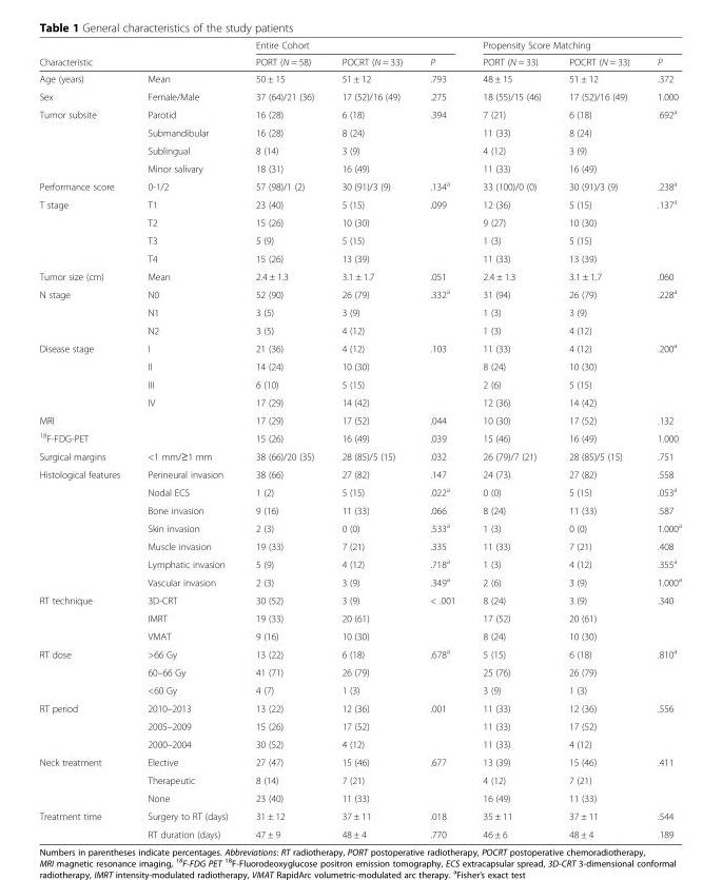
<table><thead><tr><td rowspan="2">Characteristic</td><td rowspan="2"></td><td colspan="3">Entire Cohort</td><td colspan="3">Propensity Score Matching</td></tr><tr><td>PORT (N = 58)</td><td>POCRT (N = 33)</td><td>P</td><td>PORT (N = 33)</td><td>POCRT (N = 33)</td><td>P</td></tr></thead><tbody><tr><td>Age (years)</td><td>Mean</td><td>50 ± 15</td><td>51 ± 12</td><td>.793</td><td>48 ± 15</td><td>51 ± 12</td><td>.372</td></tr><tr><td>Sex</td><td>Female/Male</td><td>37 (64)/21 (36)</td><td>17 (52)/16 (49)</td><td>.275</td><td>18 (55)/15 (46)</td><td>17 (52)/16 (49)</td><td>1.000</td></tr><tr><td rowspan="4">Tumor subsite</td><td>Parotid</td><td>16 (28)</td><td>6 (18)</td><td>.394</td><td>7 (21)</td><td>6 (18)</td><td>.692<sup>a</sup></td></tr><tr><td>Submandibular</td><td>16 (28)</td><td>8 (24)</td><td></td><td>11 (33)</td><td>8 (24)</td><td></td></tr><tr><td>Sublingual</td><td>8 (14)</td><td>3 (9)</td><td></td><td>4 (12)</td><td>3 (9)</td><td></td></tr><tr><td>Minor salivary</td><td>18 (31)</td><td>16 (49)</td><td></td><td>11 (33)</td><td>16 (49)</td><td></td></tr><tr><td>Performance score</td><td>0-1/2</td><td>57 (98)/1 (2)</td><td>30 (91)/3 (9)</td><td>.134<sup>a</sup></td><td>33 (100)/0 (0)</td><td>30 (91)/3 (9)</td><td>.238<sup>a</sup></td></tr><tr><td rowspan="4">T stage</td><td>T1</td><td>23 (40)</td><td>5 (15)</td><td>.099</td><td>12 (36)</td><td>5 (15)</td><td>.137<sup>a</sup></td></tr><tr><td>T2</td><td>15 (26)</td><td>10 (30)</td><td></td><td>9 (27)</td><td>10 (30)</td><td></td></tr><tr><td>T3</td><td>5 (9)</td><td>5 (15)</td><td></td><td>1 (3)</td><td>5 (15)</td><td></td></tr><tr><td>T4</td><td>15 (26)</td><td>13 (39)</td><td></td><td>11 (33)</td><td>13 (39)</td><td></td></tr><tr><td>Tumor size (cm)</td><td>Mean</td><td>2.4 ± 1.3</td><td>3.1 ± 1.7</td><td>.051</td><td>2.4 ± 1.3</td><td>3.1 ± 1.7</td><td>.060</td></tr><tr><td rowspan="3">N stage</td><td>N0</td><td>52 (90)</td><td>26 (79)</td><td>.332<sup>a</sup></td><td>31 (94)</td><td>26 (79)</td><td>.228<sup>a</sup></td></tr><tr><td>N1</td><td>3 (5)</td><td>3 (9)</td><td></td><td>1 (3)</td><td>3 (9)</td><td></td></tr><tr><td>N2</td><td>3 (5)</td><td>4 (12)</td><td></td><td>1 (3)</td><td>4 (12)</td><td></td></tr><tr><td rowspan="4">Disease stage</td><td>I</td><td>21 (36)</td><td>4 (12)</td><td>.103</td><td>11 (33)</td><td>4 (12)</td><td>.200<sup>a</sup></td></tr><tr><td>II</td><td>14 (24)</td><td>10 (30)</td><td></td><td>8 (24)</td><td>10 (30)</td><td></td></tr><tr><td>III</td><td>6 (10)</td><td>5 (15)</td><td></td><td>2 (6)</td><td>5 (15)</td><td></td></tr><tr><td>IV</td><td>17 (29)</td><td>14 (42)</td><td></td><td>12 (36)</td><td>14 (42)</td><td></td></tr><tr><td>MRI</td><td></td><td>17 (29)</td><td>17 (52)</td><td>.044</td><td>10 (30)</td><td>17 (52)</td><td>.132</td></tr><tr><td><sup>18</sup>F-FDG-PET</td><td></td><td>15 (26)</td><td>16 (49)</td><td>.039</td><td>15 (46)</td><td>16 (49)</td><td>1.000</td></tr><tr><td>Surgical margins</td><td>&lt;1 mm/≥1 mm</td><td>38 (66)/20 (35)</td><td>28 (85)/5 (15)</td><td>.032</td><td>26 (79)/7 (21)</td><td>28 (85)/5 (15)</td><td>.751</td></tr><tr><td rowspan="7">Histological features</td><td>Perineural invasion</td><td>38 (66)</td><td>27 (82)</td><td>.147</td><td>24 (73)</td><td>27 (82)</td><td>.558</td></tr><tr><td>Nodal ECS</td><td>1 (2)</td><td>5 (15)</td><td>.022<sup>a</sup></td><td>0 (0)</td><td>5 (15)</td><td>.053<sup>a</sup></td></tr><tr><td>Bone invasion</td><td>9 (16)</td><td>11 (33)</td><td>.066</td><td>8 (24)</td><td>11 (33)</td><td>.587</td></tr><tr><td>Skin invasion</td><td>2 (3)</td><td>0 (0)</td><td>.533<sup>a</sup></td><td>1 (3)</td><td>0 (0)</td><td>1.000<sup>a</sup></td></tr><tr><td>Muscle invasion</td><td>19 (33)</td><td>7 (21)</td><td>.335</td><td>11 (33)</td><td>7 (21)</td><td>.408</td></tr><tr><td>Lymphatic invasion</td><td>5 (9)</td><td>4 (12)</td><td>.718<sup>a</sup></td><td>1 (3)</td><td>4 (12)</td><td>.355<sup>a</sup></td></tr><tr><td>Vascular invasion</td><td>2 (3)</td><td>3 (9)</td><td>.349<sup>a</sup></td><td>2 (6)</td><td>3 (9)</td><td>1.000<sup>a</sup></td></tr><tr><td rowspan="3">RT technique</td><td>3D-CRT</td><td>30 (52)</td><td>3 (9)</td><td>&lt; .001</td><td>8 (24)</td><td>3 (9)</td><td>.340</td></tr><tr><td>IMRT</td><td>19 (33)</td><td>20 (61)</td><td></td><td>17 (52)</td><td>20 (61)</td><td></td></tr><tr><td>VMAT</td><td>9 (16)</td><td>10 (30)</td><td></td><td>8 (24)</td><td>10 (30)</td><td></td></tr><tr><td rowspan="3">RT dose</td><td>&gt;66 Gy</td><td>13 (22)</td><td>6 (18)</td><td>.678<sup>a</sup></td><td>5 (15)</td><td>6 (18)</td><td>.810<sup>a</sup></td></tr><tr><td>60–66 Gy</td><td>41 (71)</td><td>26 (79)</td><td></td><td>25 (76)</td><td>26 (79)</td><td></td></tr><tr><td>&lt;60 Gy</td><td>4 (7)</td><td>1 (3)</td><td></td><td>3 (9)</td><td>1 (3)</td><td></td></tr><tr><td rowspan="3">RT period</td><td>2010–2013</td><td>13 (22)</td><td>12 (36)</td><td>.001</td><td>11 (33)</td><td>12 (36)</td><td>.556</td></tr><tr><td>2005–2009</td><td>15 (26)</td><td>17 (52)</td><td></td><td>11 (33)</td><td>17 (52)</td><td></td></tr><tr><td>2000–2004</td><td>30 (52)</td><td>4 (12)</td><td></td><td>11 (33)</td><td>4 (12)</td><td></td></tr><tr><td rowspan="3">Neck treatment</td><td>Elective</td><td>27 (47)</td><td>15 (46)</td><td>.677</td><td>13 (39)</td><td>15 (46)</td><td>.411</td></tr><tr><td>Therapeutic</td><td>8 (14)</td><td>7 (21)</td><td></td><td>4 (12)</td><td>7 (21)</td><td></td></tr><tr><td>None</td><td>23 (40)</td><td>11 (33)</td><td></td><td>16 (49)</td><td>11 (33)</td><td></td></tr><tr><td rowspan="2">Treatment time</td><td>Surgery to RT (days)</td><td>31 ± 12</td><td>37 ± 11</td><td>.018</td><td>35 ± 11</td><td>37 ± 11</td><td>.544</td></tr><tr><td>RT duration (days)</td><td>47 ± 9</td><td>48 ± 4</td><td>.770</td><td>46 ± 6</td><td>48 ± 4</td><td>.189</td></tr></tbody></table>